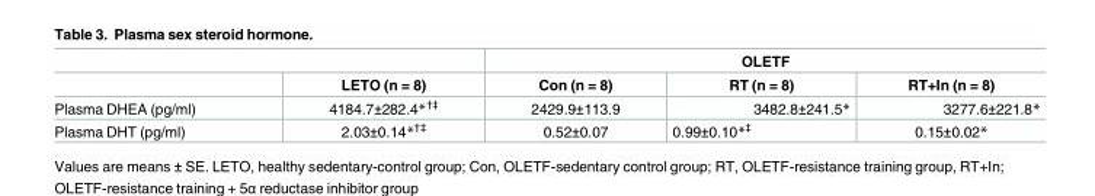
<table><thead><tr><td rowspan="2"></td><td rowspan="2">LETO (n = 8)</td><td colspan="3">OLETF</td></tr><tr><td>Con (n = 8)</td><td>RT (n = 8)</td><td>RT+In (n = 8)</td></tr></thead><tbody><tr><td>Plasma DHEA (pg/ml)</td><td>4184.7±282.4*<sup>†‡</sup></td><td>2429.9±113.9</td><td>3482.8±241.5*</td><td>3277.6±221.8*</td></tr><tr><td>Plasma DHT (pg/ml)</td><td>2.03±0.14*<sup>†‡</sup></td><td>0.52±0.07</td><td>0.99±0.10*<sup>‡</sup></td><td>0.15±0.02*</td></tr></tbody></table>